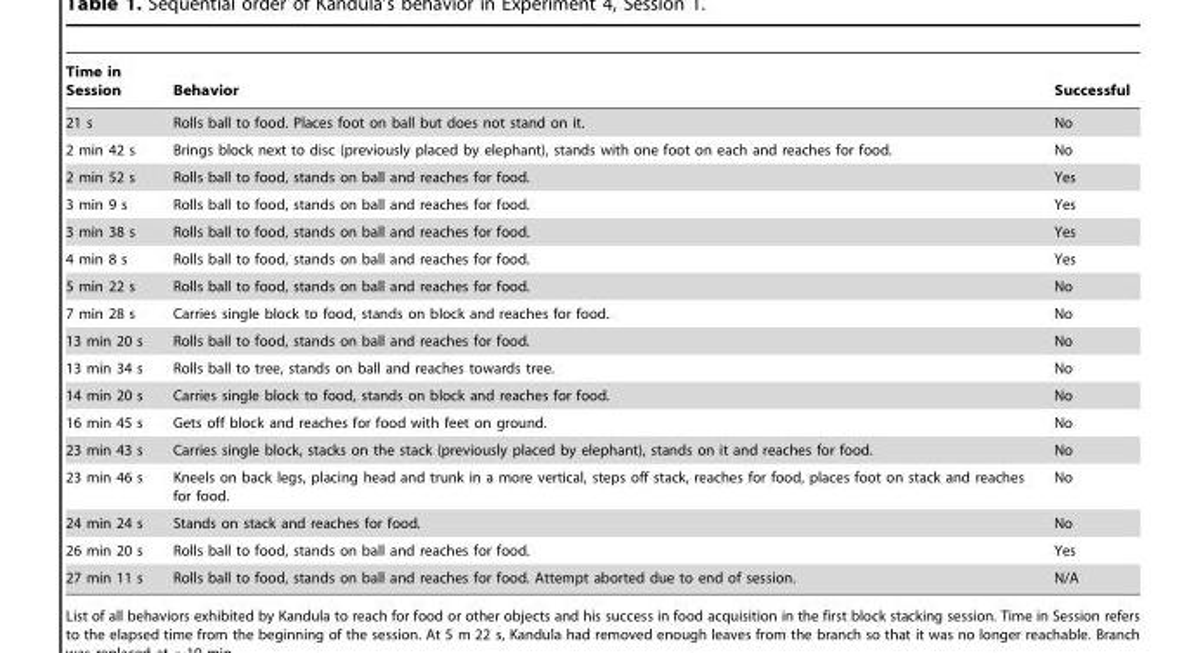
<table><thead><tr><td>Time in Session</td><td>Behavior</td><td>Successful</td></tr></thead><tbody><tr><td>21 s</td><td>Rolls ball to food. Places foot on ball but does not stand on it.</td><td>No</td></tr><tr><td>2 min 42 s</td><td>Brings block next to disc (previously placed by elephant), stands with one foot on each and reaches for food.</td><td>No</td></tr><tr><td>2 min 52 s</td><td>Rolls ball to food, stands on ball and reaches for food.</td><td>Yes</td></tr><tr><td>3 min 9 s</td><td>Rolls ball to food, stands on ball and reaches for food.</td><td>Yes</td></tr><tr><td>3 min 38 s</td><td>Rolls ball to food, stands on ball and reaches for food.</td><td>Yes</td></tr><tr><td>4 min 8 s</td><td>Rolls ball to food, stands on ball and reaches for food.</td><td>Yes</td></tr><tr><td>5 min 22 s</td><td>Rolls ball to food, stands on ball and reaches for food.</td><td>No</td></tr><tr><td>7 min 28 s</td><td>Carries single block to food, stands on block and reaches for food.</td><td>No</td></tr><tr><td>13 min 20 s</td><td>Rolls ball to food, stands on ball and reaches for food.</td><td>No</td></tr><tr><td>13 min 34 s</td><td>Rolls ball to tree, stands on ball and reaches towards tree.</td><td>No</td></tr><tr><td>14 min 20 s</td><td>Carries single block to food, stands on block and reaches for food.</td><td>No</td></tr><tr><td>16 min 45 s</td><td>Gets off block and reaches for food with feet on ground.</td><td>No</td></tr><tr><td>23 min 43 s</td><td>Carries single block, stacks on the stack (previously placed by elephant), stands on it and reaches for food.</td><td>No</td></tr><tr><td>23 min 46 s</td><td>Kneels on back legs, placing head and trunk in a more vertical, steps off stack, reaches for food, places foot on stack and reaches for food.</td><td>No</td></tr><tr><td>24 min 24 s</td><td>Stands on stack and reaches for food.</td><td>No</td></tr><tr><td>26 min 20 s</td><td>Rolls ball to food, stands on ball and reaches for food.</td><td>Yes</td></tr><tr><td>27 min 11 s</td><td>Rolls ball to food, stands on ball and reaches for food. Attempt aborted due to end of session.</td><td>N/A</td></tr></tbody></table>